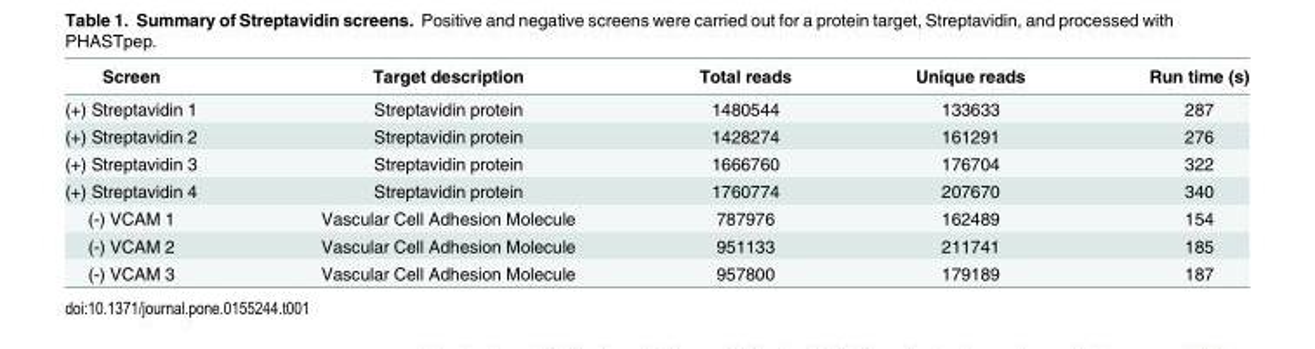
<table><thead><tr><td>Screen</td><td>Target description</td><td>Total reads</td><td>Unique reads</td><td>Run time (s)</td></tr></thead><tbody><tr><td>(+) Streptavidin 1</td><td>Streptavidin protein</td><td>1480544</td><td>133633</td><td>287</td></tr><tr><td>(+) Streptavidin 2</td><td>Streptavidin protein</td><td>1428274</td><td>161291</td><td>276</td></tr><tr><td>(+) Streptavidin 3</td><td>Streptavidin protein</td><td>1666760</td><td>176704</td><td>322</td></tr><tr><td>(+) Streptavidin 4</td><td>Streptavidin protein</td><td>1760774</td><td>207670</td><td>340</td></tr><tr><td>(-) VCAM 1</td><td>Vascular Cell Adhesion Molecule</td><td>787976</td><td>162489</td><td>154</td></tr><tr><td>(-) VCAM 2</td><td>Vascular Cell Adhesion Molecule</td><td>951133</td><td>211741</td><td>185</td></tr><tr><td>(-) VCAM 3</td><td>Vascular Cell Adhesion Molecule</td><td>957800</td><td>179189</td><td>187</td></tr></tbody></table>